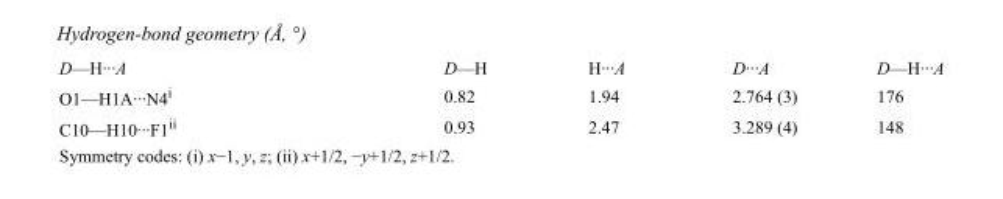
<table><tbody><tr><td>D—H···A</td><td>D—H</td><td>H···A</td><td>D···A</td><td>D—H···A</td></tr><tr><td>O1—H1A···N4<sup>i</sup></td><td>0.82</td><td>1.94</td><td>2.764 (3)</td><td>176</td></tr><tr><td>C10—H10···F1<sup>ii</sup></td><td>0.93</td><td>2.47</td><td>3.289 (4)</td><td>148</td></tr></tbody></table>